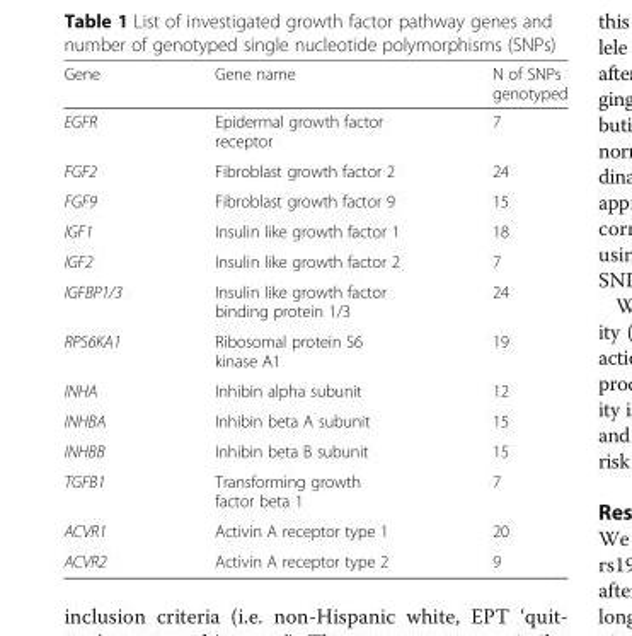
<table><thead><tr><td>Gene</td><td>Gene name</td><td>N of SNPs genotyped</td></tr></thead><tbody><tr><td>EGFR</td><td>Epidermal growth factor receptor</td><td>7</td></tr><tr><td>FGF2</td><td>Fibroblast growth factor 2</td><td>24</td></tr><tr><td>FGF9</td><td>Fibroblast growth factor 9</td><td>15</td></tr><tr><td>IGF1</td><td>Insulin like growth factor 1</td><td>18</td></tr><tr><td>IGF2</td><td>Insulin like growth factor 2</td><td>7</td></tr><tr><td>IGFBP1/3</td><td>Insulin like growth factor binding protein 1/3</td><td>24</td></tr><tr><td>RPS6KA1</td><td>Ribosomal protein S6 kinase A1</td><td>19</td></tr><tr><td>INHA</td><td>Inhibin alpha subunit</td><td>12</td></tr><tr><td>INHBA</td><td>Inhibin beta A subunit</td><td>15</td></tr><tr><td>INHBB</td><td>Inhibin beta B subunit</td><td>15</td></tr><tr><td>TGFB1</td><td>Transforming growth factor beta 1</td><td>7</td></tr><tr><td>ACVR1</td><td>Activin A receptor type 1</td><td>20</td></tr><tr><td>ACVR2</td><td>Activin A receptor type 2</td><td>9</td></tr></tbody></table>